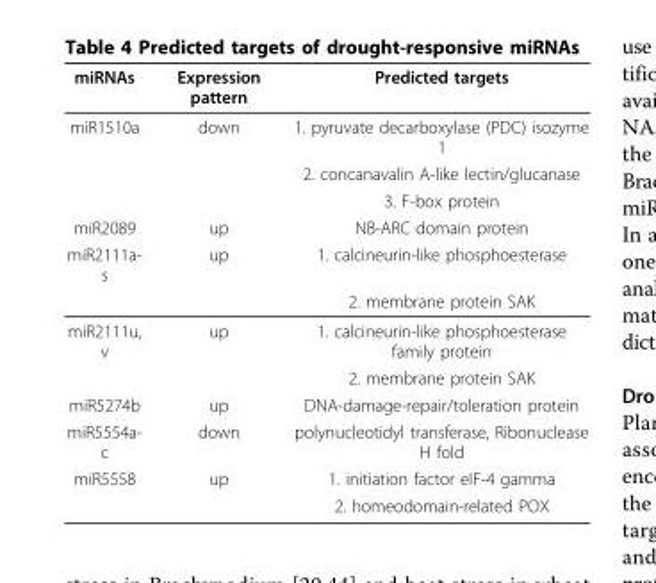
<table><thead><tr><td>miRNAs</td><td>Expression pattern</td><td>Predicted targets</td></tr></thead><tbody><tr><td rowspan="3">miR1510a</td><td>down</td><td>1. pyruvate decarboxylase (PDC) isozyme 1</td></tr><tr><td></td><td>2. concanavalin A-like lectin/glucanase</td></tr><tr><td></td><td>3. F-box protein</td></tr><tr><td>miR2089</td><td>up</td><td>NB-ARC domain protein</td></tr><tr><td rowspan="2">miR2111a- s</td><td>up</td><td>1. calcineurin-like phosphoesterase</td></tr><tr><td></td><td>2. membrane protein SAK</td></tr><tr><td rowspan="2">miR2111u, v</td><td>up</td><td>1. calcineurin-like phosphoesterase family protein</td></tr><tr><td></td><td>2. membrane protein SAK</td></tr><tr><td>miR5274b</td><td>up</td><td>DNA-damage-repair/toleration protein</td></tr><tr><td>miR5554a- c</td><td>down</td><td>polynucleotidyl transferase, Ribonuclease H fold</td></tr><tr><td rowspan="2">miR5558</td><td>up</td><td>1. initiation factor eIF-4 gamma</td></tr><tr><td></td><td>2. homeodomain-related POX</td></tr></tbody></table>